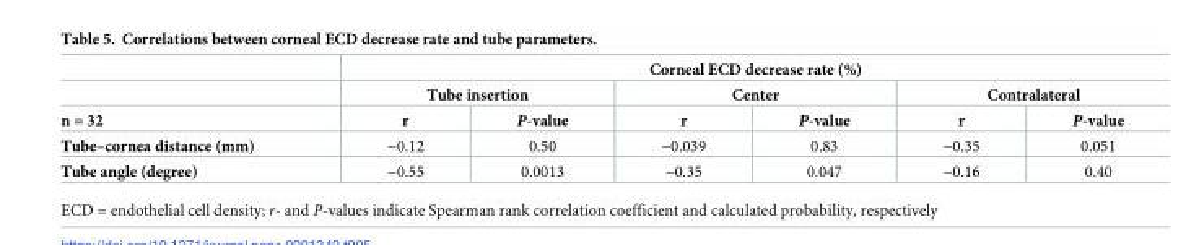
<table><thead><tr><td rowspan="3">n = 32</td><td colspan="6">Corneal ECD decrease rate (%)</td></tr><tr><td colspan="2">Tube insertion</td><td colspan="2">Center</td><td colspan="2">Contralateral</td></tr><tr><td>r</td><td>P-value</td><td>r</td><td>P-value</td><td>r</td><td>P-value</td></tr></thead><tbody><tr><td>Tube–cornea distance (mm)</td><td>−0.12</td><td>0.50</td><td>−0.039</td><td>0.83</td><td>−0.35</td><td>0.051</td></tr><tr><td>Tube angle (degree)</td><td>−0.55</td><td>0.0013</td><td>−0.35</td><td>0.047</td><td>−0.16</td><td>0.40</td></tr></tbody></table>